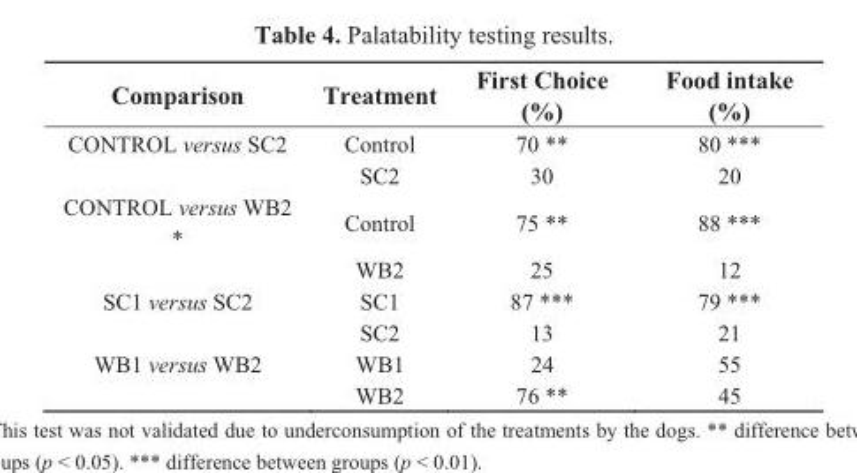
<table><thead><tr><td>Comparison</td><td>Treatment</td><td>First Choice (%)</td><td>Food intake (%)</td></tr></thead><tbody><tr><td rowspan="2">CONTROL versus SC2</td><td>Control</td><td>70 **</td><td>80 ***</td></tr><tr><td>SC2</td><td>30</td><td>20</td></tr><tr><td rowspan="2">CONTROL versus WB2 *</td><td>Control</td><td>75 **</td><td>88 ***</td></tr><tr><td>WB2</td><td>25</td><td>12</td></tr><tr><td rowspan="2">SC1 versus SC2</td><td>SC1</td><td>87 ***</td><td>79 ***</td></tr><tr><td>SC2</td><td>13</td><td>21</td></tr><tr><td rowspan="2">WB1 versus WB2</td><td>WB1</td><td>24</td><td>55</td></tr><tr><td>WB2</td><td>76 **</td><td>45</td></tr></tbody></table>